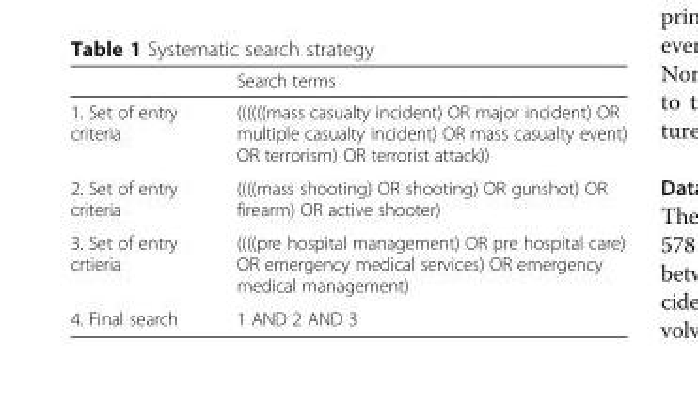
<table><thead><tr><td></td><td>Search terms</td></tr></thead><tbody><tr><td>1. Set of entry criteria</td><td>((((((mass casualty incident) OR major incident) OR multiple casualty incident) OR mass casualty event) OR terrorism) OR terrorist attack))</td></tr><tr><td>2. Set of entry criteria</td><td>((((mass shooting) OR shooting) OR gunshot) OR firearm) OR active shooter)</td></tr><tr><td>3. Set of entry crtieria</td><td>((((pre hospital management) OR pre hospital care) OR emergency medical services) OR emergency medical management)</td></tr><tr><td>4. Final search</td><td>1 AND 2 AND 3</td></tr></tbody></table>